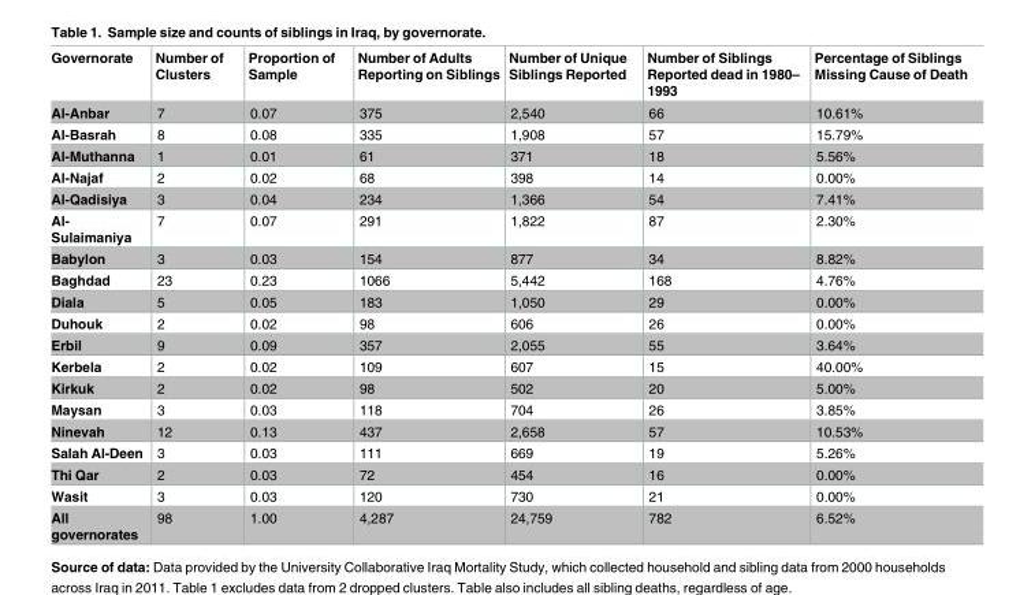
<table><thead><tr><td>Governorate</td><td>Number of Clusters</td><td>Proportion of Sample</td><td>Number of Adults Reporting on Siblings</td><td>Number of Unique Siblings Reported</td><td>Number of Siblings Reported dead in 1980– 1993</td><td>Percentage of Siblings Missing Cause of Death</td></tr></thead><tbody><tr><td>Al-Anbar</td><td>7</td><td>0.07</td><td>375</td><td>2,540</td><td>66</td><td>10.61%</td></tr><tr><td>Al-Basrah</td><td>8</td><td>0.08</td><td>335</td><td>1,908</td><td>57</td><td>15.79%</td></tr><tr><td>Al-Muthanna</td><td>1</td><td>0.01</td><td>61</td><td>371</td><td>18</td><td>5.56%</td></tr><tr><td>Al-Najaf</td><td>2</td><td>0.02</td><td>68</td><td>398</td><td>14</td><td>0.00%</td></tr><tr><td>Al-Qadisiya</td><td>3</td><td>0.04</td><td>234</td><td>1,366</td><td>54</td><td>7.41%</td></tr><tr><td>Al- Sulaimaniya</td><td>7</td><td>0.07</td><td>291</td><td>1,822</td><td>87</td><td>2.30%</td></tr><tr><td>Babylon</td><td>3</td><td>0.03</td><td>154</td><td>877</td><td>34</td><td>8.82%</td></tr><tr><td>Baghdad</td><td>23</td><td>0.23</td><td>1066</td><td>5,442</td><td>168</td><td>4.76%</td></tr><tr><td>Diala</td><td>5</td><td>0.05</td><td>183</td><td>1,050</td><td>29</td><td>0.00%</td></tr><tr><td>Duhouk</td><td>2</td><td>0.02</td><td>98</td><td>606</td><td>26</td><td>0.00%</td></tr><tr><td>Erbil</td><td>9</td><td>0.09</td><td>357</td><td>2,055</td><td>55</td><td>3.64%</td></tr><tr><td>Kerbela</td><td>2</td><td>0.02</td><td>109</td><td>607</td><td>15</td><td>40.00%</td></tr><tr><td>Kirkuk</td><td>2</td><td>0.02</td><td>98</td><td>502</td><td>20</td><td>5.00%</td></tr><tr><td>Maysan</td><td>3</td><td>0.03</td><td>118</td><td>704</td><td>26</td><td>3.85%</td></tr><tr><td>Ninevah</td><td>12</td><td>0.13</td><td>437</td><td>2,658</td><td>57</td><td>10.53%</td></tr><tr><td>Salah Al-Deen</td><td>3</td><td>0.03</td><td>111</td><td>669</td><td>19</td><td>5.26%</td></tr><tr><td>Thi Qar</td><td>2</td><td>0.03</td><td>72</td><td>454</td><td>16</td><td>0.00%</td></tr><tr><td>Wasit</td><td>3</td><td>0.03</td><td>120</td><td>730</td><td>21</td><td>0.00%</td></tr><tr><td>All governorates</td><td>98</td><td>1.00</td><td>4,287</td><td>24,759</td><td>782</td><td>6.52%</td></tr></tbody></table>